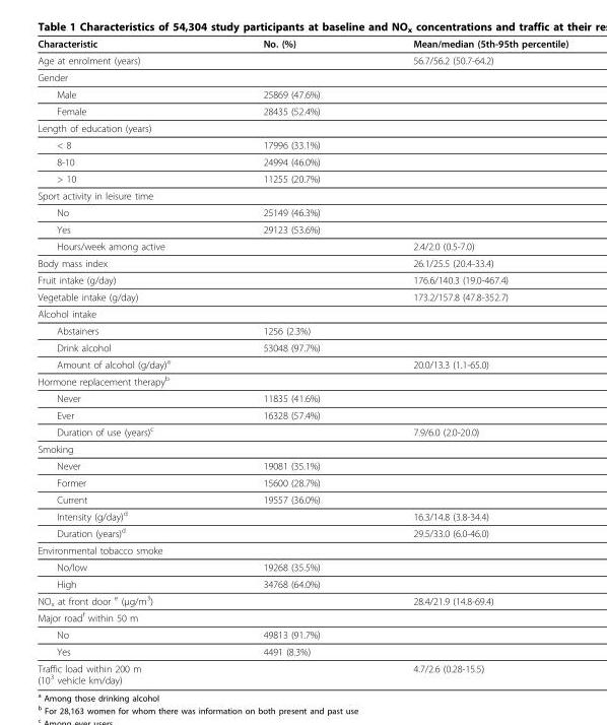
<table><thead><tr><td>Characteristic</td><td>No. (%)</td><td>Mean/median (5th-95th percentile)</td></tr></thead><tbody><tr><td>Age at enrolment (years)</td><td></td><td>56.7/56.2 (50.7-64.2)</td></tr><tr><td colspan="3">Gender</td></tr><tr><td>Male</td><td>25869 (47.6%)</td><td></td></tr><tr><td>Female</td><td>28435 (52.4%)</td><td></td></tr><tr><td colspan="3">Length of education (years)</td></tr><tr><td>&lt; 8</td><td>17996 (33.1%)</td><td></td></tr><tr><td>8-10</td><td>24994 (46.0%)</td><td></td></tr><tr><td>&gt; 10</td><td>11255 (20.7%)</td><td></td></tr><tr><td colspan="3">Sport activity in leisure time</td></tr><tr><td>No</td><td>25149 (46.3%)</td><td></td></tr><tr><td>Yes</td><td>29123 (53.6%)</td><td></td></tr><tr><td>Hours/week among active</td><td></td><td>2.4/2.0 (0.5-7.0)</td></tr><tr><td>Body mass index</td><td></td><td>26.1/25.5 (20.4-33.4)</td></tr><tr><td>Fruit intake (g/day)</td><td></td><td>176.6/140.3 (19.0-467.4)</td></tr><tr><td>Vegetable intake (g/day)</td><td></td><td>173.2/157.8 (47.8-352.7)</td></tr><tr><td colspan="3">Alcohol intake</td></tr><tr><td>Abstainers</td><td>1256 (2.3%)</td><td></td></tr><tr><td>Drink alcohol</td><td>53048 (97.7%)</td><td></td></tr><tr><td>Amount of alcohol (g/day)<sup>a</sup></td><td></td><td>20.0/13.3 (1.1-65.0)</td></tr><tr><td colspan="3">Hormone replacement therapy<sup>b</sup></td></tr><tr><td>Never</td><td>11835 (41.6%)</td><td></td></tr><tr><td>Ever</td><td>16328 (57.4%)</td><td></td></tr><tr><td>Duration of use (years)<sup>c</sup></td><td></td><td>7.9/6.0 (2.0-20.0)</td></tr><tr><td colspan="3">Smoking</td></tr><tr><td>Never</td><td>19081 (35.1%)</td><td></td></tr><tr><td>Former</td><td>15600 (28.7%)</td><td></td></tr><tr><td>Current</td><td>19557 (36.0%)</td><td></td></tr><tr><td>Intensity (g/day)<sup>d</sup></td><td></td><td>16.3/14.8 (3.8-34.4)</td></tr><tr><td>Duration (years)<sup>d</sup></td><td></td><td>29.5/33.0 (6.0-46.0)</td></tr><tr><td colspan="3">Environmental tobacco smoke</td></tr><tr><td>No/low</td><td>19268 (35.5%)</td><td></td></tr><tr><td>High</td><td>34768 (64.0%)</td><td></td></tr><tr><td>NO<sub>x</sub> at front door <sup>e</sup> (μg/m<sup>3</sup>)</td><td></td><td>28.4/21.9 (14.8-69.4)</td></tr><tr><td colspan="3">Major road<sup>f</sup> within 50 m</td></tr><tr><td>No</td><td>49813 (91.7%)</td><td></td></tr><tr><td>Yes</td><td>4491 (8.3%)</td><td></td></tr><tr><td>Traffic load within 200 m (10<sup>3</sup> vehicle km/day)</td><td></td><td>4.7/2.6 (0.28-15.5)</td></tr></tbody></table>